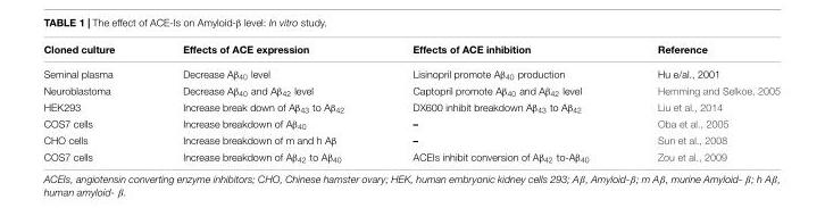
<table><thead><tr><td>Cloned culture</td><td>Effects of ACE expression</td><td>Effects of ACE inhibition</td><td>Reference</td></tr></thead><tbody><tr><td>Seminal plasma</td><td>Decrease Aβ<sub>40</sub> level</td><td>Lisinopril promote Aβ<sub>40</sub> production</td><td>Hu e/al., 2001</td></tr><tr><td>Neuroblastoma</td><td>Decrease Aβ<sub>40</sub> and Aβ<sub>42</sub> level</td><td>Captopril promote Aβ<sub>40</sub> and Aβ<sub>42</sub> level</td><td>Hemming and Selkoe, 2005</td></tr><tr><td>HEK293</td><td>Increase break down of Aβ<sub>43</sub> to Aβ<sub>42</sub></td><td>DX600 inhibit breakdown Aβ<sub>43</sub> to Aβ<sub>42</sub></td><td>Liu et al., 2014</td></tr><tr><td>COS7 cells</td><td>Increase breakdown of Aβ<sub>40</sub></td><td>–</td><td>Oba et al., 2005</td></tr><tr><td>CHO cells</td><td>Increase breakdown of m and h Aβ</td><td>–</td><td>Sun et al., 2008</td></tr><tr><td>COS7 cells</td><td>Increase breakdown of Aβ<sub>42</sub> to Aβ<sub>40</sub></td><td>ACEIs inhibit conversion of Aβ<sub>42</sub> to-Aβ<sub>40</sub></td><td>Zou et al., 2009</td></tr></tbody></table>